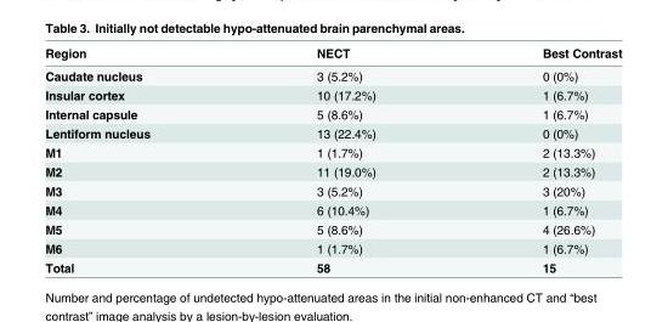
<table><thead><tr><td>Region</td><td>NECT</td><td>Best Contrast</td></tr></thead><tbody><tr><td>Caudate nucleus</td><td>3 (5.2%)</td><td>0 (0%)</td></tr><tr><td>Insular cortex</td><td>10 (17.2%)</td><td>1 (6.7%)</td></tr><tr><td>Internal capsule</td><td>5 (8.6%)</td><td>1 (6.7%)</td></tr><tr><td>Lentiform nucleus</td><td>13 (22.4%)</td><td>0 (0%)</td></tr><tr><td>M1</td><td>1 (1.7%)</td><td>2 (13.3%)</td></tr><tr><td>M2</td><td>11 (19.0%)</td><td>2 (13.3%)</td></tr><tr><td>M3</td><td>3 (5.2%)</td><td>3 (20%)</td></tr><tr><td>M4</td><td>6 (10.4%)</td><td>1 (6.7%)</td></tr><tr><td>M5</td><td>5 (8.6%)</td><td>4 (26.6%)</td></tr><tr><td>M6</td><td>1 (1.7%)</td><td>1 (6.7%)</td></tr><tr><td>Total</td><td>58</td><td>15</td></tr></tbody></table>